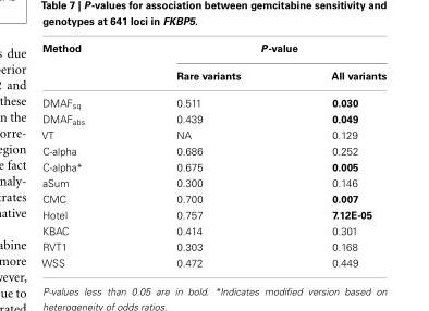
<table><thead><tr><td rowspan="2">Method</td><td colspan="2">P-value</td></tr><tr><td>Rare variants</td><td>All variants</td></tr></thead><tbody><tr><td>DMAF<sub>sq</sub></td><td>0.511</td><td>0.030</td></tr><tr><td>DMAF<sub>abs</sub></td><td>0.439</td><td>0.049</td></tr><tr><td>VT</td><td>NA</td><td>0.129</td></tr><tr><td>C-alpha</td><td>0.686</td><td>0.252</td></tr><tr><td>C-alpha*</td><td>0.675</td><td>0.005</td></tr><tr><td>aSum</td><td>0.300</td><td>0.146</td></tr><tr><td>CMC</td><td>0.700</td><td>0.007</td></tr><tr><td>Hotel</td><td>0.757</td><td>7.12E-05</td></tr><tr><td>KBAC</td><td>0.414</td><td>0.301</td></tr><tr><td>RVT1</td><td>0.303</td><td>0.168</td></tr><tr><td>WSS</td><td>0.472</td><td>0.449</td></tr></tbody></table>